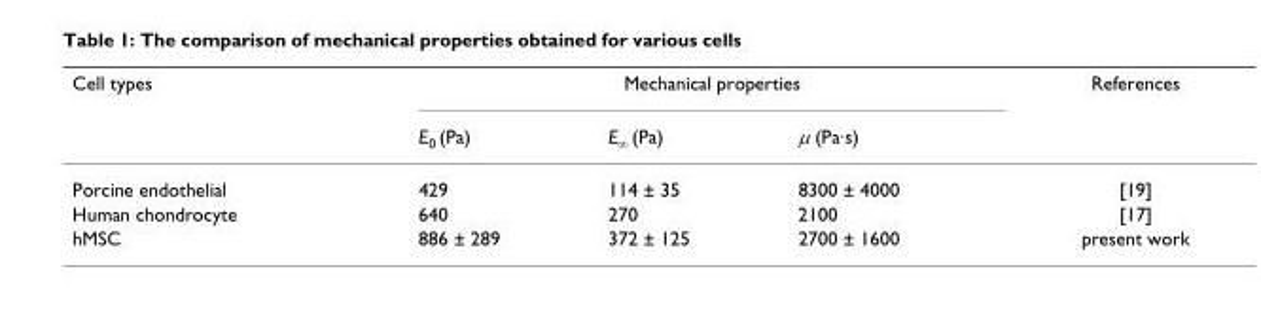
<table><thead><tr><td rowspan="2">Cell types</td><td colspan="3">Mechanical properties</td><td rowspan="2">References</td></tr><tr><td>E<sub>0</sub> (Pa)</td><td>E<sub>∞</sub> (Pa)</td><td>μ (Pa·s)</td></tr></thead><tbody><tr><td>Porcine endothelial</td><td>429</td><td>114 ± 35</td><td>8300 ± 4000</td><td>[19]</td></tr><tr><td>Human chondrocyte</td><td>640</td><td>270</td><td>2100</td><td>[17]</td></tr><tr><td>hMSC</td><td>886 ± 289</td><td>372 ± 125</td><td>2700 ± 1600</td><td>present work</td></tr></tbody></table>